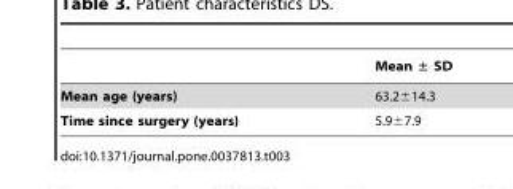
<table><thead><tr><td></td><td>Mean ± SD</td></tr></thead><tbody><tr><td>Mean age (years)</td><td>63.2±14.3</td></tr><tr><td>Time since surgery (years)</td><td>5.9±7.9</td></tr></tbody></table>